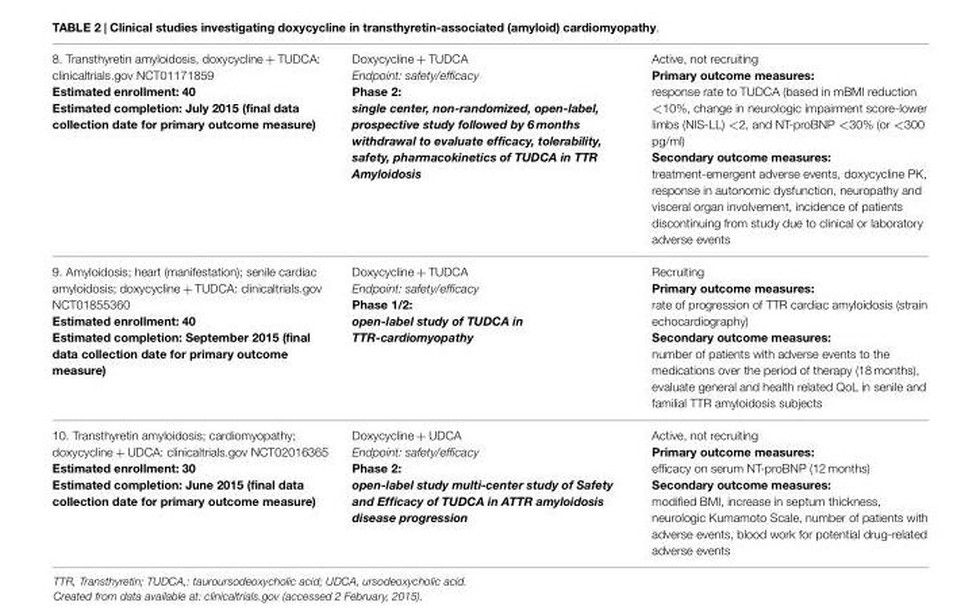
<table><tbody><tr><td>8. Transthyretin amyloidosis, doxycycline + TUDCA: clinicaltrials.gov NCT01171859 Estimated enrollment: 40 Estimated completion: July 2015 (final data collection date for primary outcome measure)</td><td>Doxycycline + TUDCA Endpoint: safety/efficacy Phase 2: single center, non-randomized, open-label, prospective study followed by 6 months withdrawal to evaluate efficacy, tolerability, safety, pharmacokinetics of TUDCA in TTR Amyloidosis</td><td>Active, not recruiting Primary outcome measures: response rate to TUDCA (based in mBMI reduction &lt;10%, change in neurologic impairment score-lower limbs (NIS-LL) &lt;2, and NT-proBNP &lt;30% (or &lt;300 pg/ml) Secondary outcome measures: treatment-emergent adverse events, doxycycline PK, response in autonomic dysfunction, neuropathy and visceral organ involvement, incidence of patients discontinuing from study due to clinical or laboratory adverse events</td></tr><tr><td>9. Amyloidosis; heart (manifestation); senile cardiac amyloidosis; doxycycline + TUDCA: clinicaltrials.gov NCT01855360 Estimated enrollment: 40 Estimated completion: September 2015 (final data collection date for primary outcome measure)</td><td>Doxycycline + TUDCA Endpoint: safety/efficacy Phase 1/2: open-label study of TUDCA in TTR-cardiomyopathy</td><td>Recruiting Primary outcome measures: rate of progression of TTR cardiac amyloidosis (strain echocardiography) Secondary outcome measures: number of patients with adverse events to the medications over the period of therapy (18 months), evaluate general and health related QoL in senile and familial TTR amyloidosis subjects</td></tr><tr><td>10. Transthyretin amyloidosis; cardiomyopathy; doxycycline + UDCA: clinicaltrials.gov NCT02016365 Estimated enrollment: 30 Estimated completion: June 2015 (final data collection date for primary outcome measure)</td><td>Doxycycline + UDCA Endpoint: safety/efficacy Phase 2: open-label study multi-center study of Safety and Efficacy of TUDCA in ATTR amyloidosis disease progression</td><td>Active, not recruiting Primary outcome measures: efficacy on serum NT-proBNP (12 months) Secondary outcome measures: modified BMI, increase in septum thickness, neurologic Kumamoto Scale, number of patients with adverse events, blood work for potential drug-related adverse events</td></tr></tbody></table>